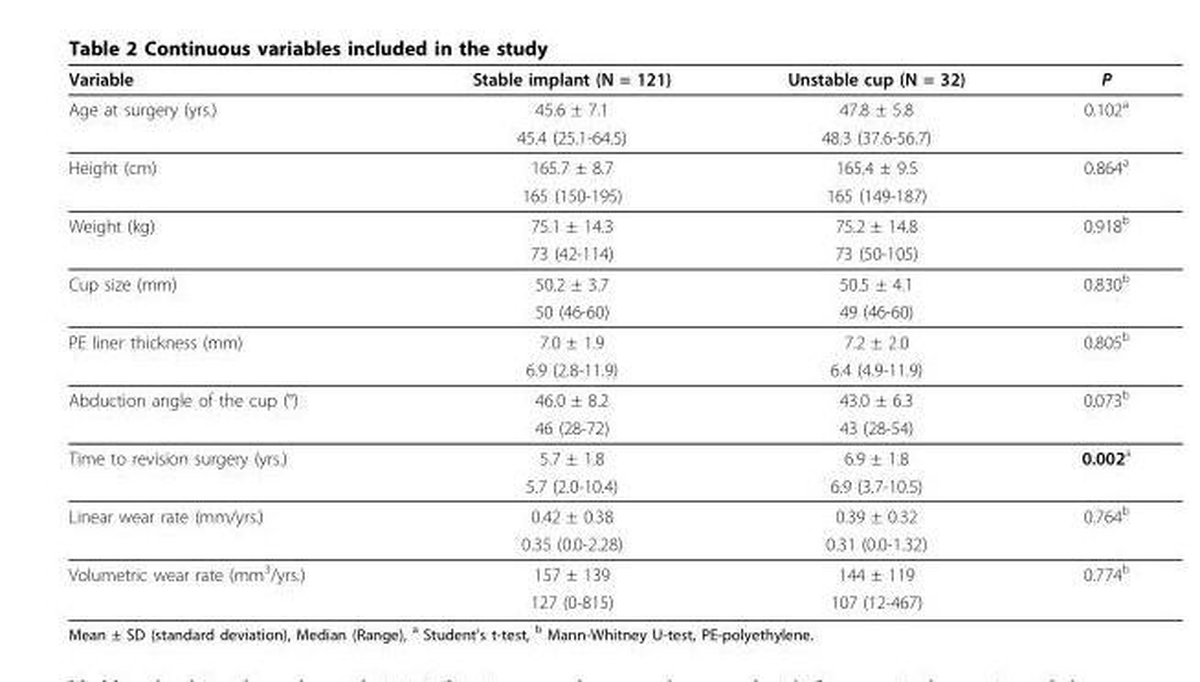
<table><thead><tr><td>Variable</td><td>Stable implant (N = 121)</td><td>Unstable cup (N = 32)</td><td>P</td></tr></thead><tbody><tr><td rowspan="2">Age at surgery (yrs.)</td><td>45.6 ± 7.1</td><td>47.8 ± 5.8</td><td>0.102<sup>a</sup></td></tr><tr><td>45.4 (25.1-64.5)</td><td>48.3 (37.6-56.7)</td><td></td></tr><tr><td rowspan="2">Height (cm)</td><td>165.7 ± 8.7</td><td>165.4 ± 9.5</td><td>0.864<sup>a</sup></td></tr><tr><td>165 (150-195)</td><td>165 (149-187)</td><td></td></tr><tr><td rowspan="2">Weight (kg)</td><td>75.1 ± 14.3</td><td>75.2 ± 14.8</td><td>0.918<sup>b</sup></td></tr><tr><td>73 (42-114)</td><td>73 (50-105)</td><td></td></tr><tr><td rowspan="2">Cup size (mm)</td><td>50.2 ± 3.7</td><td>50.5 ± 4.1</td><td>0.830<sup>b</sup></td></tr><tr><td>50 (46-60)</td><td>49 (46-60)</td><td></td></tr><tr><td rowspan="2">PE liner thickness (mm)</td><td>7.0 ± 1.9</td><td>7.2 ± 2.0</td><td>0.805<sup>b</sup></td></tr><tr><td>6.9 (2.8-11.9)</td><td>6.4 (4.9-11.9)</td><td></td></tr><tr><td rowspan="2">Abduction angle of the cup (°)</td><td>46.0 ± 8.2</td><td>43.0 ± 6.3</td><td>0.073<sup>b</sup></td></tr><tr><td>46 (28-72)</td><td>43 (28-54)</td><td></td></tr><tr><td rowspan="2">Time to revision surgery (yrs.)</td><td>5.7 ± 1.8</td><td>6.9 ± 1.8</td><td>0.002<sup>a</sup></td></tr><tr><td>5.7 (2.0-10.4)</td><td>6.9 (3.7-10.5)</td><td></td></tr><tr><td rowspan="2">Linear wear rate (mm/yrs.)</td><td>0.42 ± 0.38</td><td>0.39 ± 0.32</td><td>0.764<sup>b</sup></td></tr><tr><td>0.35 (0.0-2.28)</td><td>0.31 (0.0-1.32)</td><td></td></tr><tr><td rowspan="2">Volumetric wear rate (mm<sup>3</sup>/yrs.)</td><td>157 ± 139</td><td>144 ± 119</td><td>0.774<sup>b</sup></td></tr><tr><td>127 (0-815)</td><td>107 (12-467)</td><td></td></tr></tbody></table>